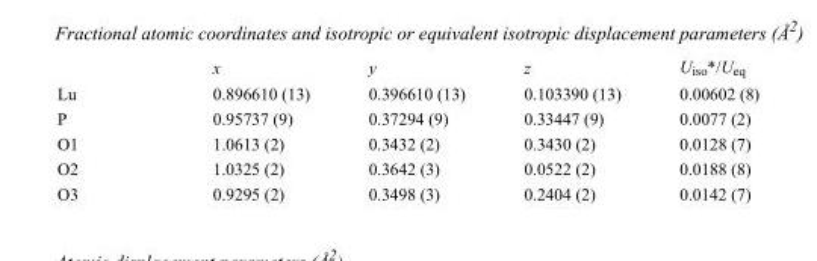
<table><thead><tr><td></td><td>x</td><td>y</td><td>z</td><td>U<sub>iso</sub>*/U<sub>eq</sub></td></tr></thead><tbody><tr><td>Lu</td><td>0.896610 (13)</td><td>0.396610 (13)</td><td>0.103390 (13)</td><td>0.00602 (8)</td></tr><tr><td>P</td><td>0.95737 (9)</td><td>0.37294 (9)</td><td>0.33447 (9)</td><td>0.0077 (2)</td></tr><tr><td>O1</td><td>1.0613 (2)</td><td>0.3432 (2)</td><td>0.3430 (2)</td><td>0.0128 (7)</td></tr><tr><td>O2</td><td>1.0325 (2)</td><td>0.3642 (3)</td><td>0.0522 (2)</td><td>0.0188 (8)</td></tr><tr><td>O3</td><td>0.9295 (2)</td><td>0.3498 (3)</td><td>0.2404 (2)</td><td>0.0142 (7)</td></tr></tbody></table>